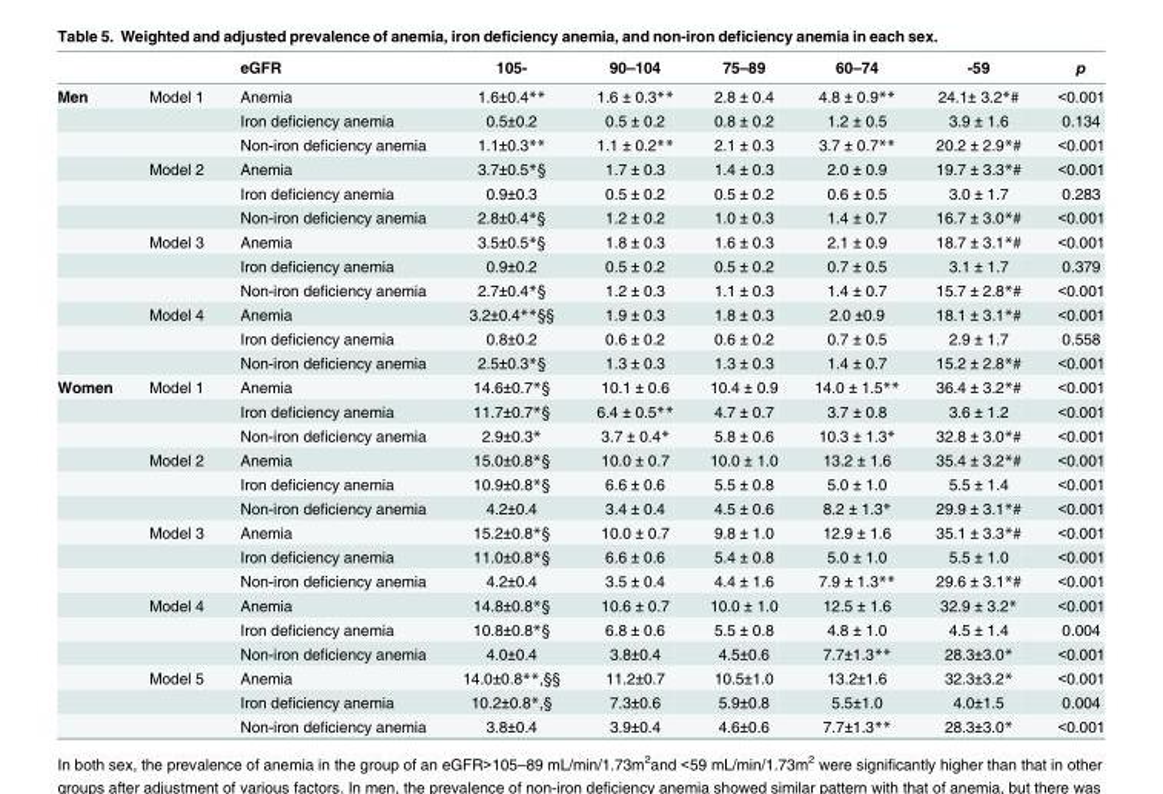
<table><thead><tr><td></td><td></td><td>eGFR</td><td>105-</td><td>90–104</td><td>75–89</td><td>60–74</td><td>-59</td><td>p</td></tr></thead><tbody><tr><td rowspan="12">Men</td><td>Model 1</td><td>Anemia</td><td>1.6±0.4**</td><td>1.6 ± 0.3**</td><td>2.8 ± 0.4</td><td>4.8 ± 0.9**</td><td>24.1± 3.2*#</td><td>&lt;0.001</td></tr><tr><td></td><td>Iron deficiency anemia</td><td>0.5±0.2</td><td>0.5 ± 0.2</td><td>0.8 ± 0.2</td><td>1.2 ± 0.5</td><td>3.9 ± 1.6</td><td>0.134</td></tr><tr><td></td><td>Non-iron deficiency anemia</td><td>1.1±0.3**</td><td>1.1 ± 0.2**</td><td>2.1 ± 0.3</td><td>3.7 ± 0.7**</td><td>20.2 ± 2.9*#</td><td>&lt;0.001</td></tr><tr><td>Model 2</td><td>Anemia</td><td>3.7±0.5*§</td><td>1.7 ± 0.3</td><td>1.4 ± 0.3</td><td>2.0 ± 0.9</td><td>19.7 ± 3.3*#</td><td>&lt;0.001</td></tr><tr><td></td><td>Iron deficiency anemia</td><td>0.9±0.3</td><td>0.5 ± 0.2</td><td>0.5 ± 0.2</td><td>0.6 ± 0.5</td><td>3.0 ± 1.7</td><td>0.283</td></tr><tr><td></td><td>Non-iron deficiency anemia</td><td>2.8±0.4*§</td><td>1.2 ± 0.2</td><td>1.0 ± 0.3</td><td>1.4 ± 0.7</td><td>16.7 ± 3.0*#</td><td>&lt;0.001</td></tr><tr><td>Model 3</td><td>Anemia</td><td>3.5±0.5*§</td><td>1.8 ± 0.3</td><td>1.6 ± 0.3</td><td>2.1 ± 0.9</td><td>18.7 ± 3.1*#</td><td>&lt;0.001</td></tr><tr><td></td><td>Iron deficiency anemia</td><td>0.9±0.2</td><td>0.5 ± 0.2</td><td>0.5 ± 0.2</td><td>0.7 ± 0.5</td><td>3.1 ± 1.7</td><td>0.379</td></tr><tr><td></td><td>Non-iron deficiency anemia</td><td>2.7±0.4*§</td><td>1.2 ± 0.3</td><td>1.1 ± 0.3</td><td>1.4 ± 0.7</td><td>15.7 ± 2.8*#</td><td>&lt;0.001</td></tr><tr><td>Model 4</td><td>Anemia</td><td>3.2±0.4**§§</td><td>1.9 ± 0.3</td><td>1.8 ± 0.3</td><td>2.0 ±0.9</td><td>18.1 ± 3.1*#</td><td>&lt;0.001</td></tr><tr><td></td><td>Iron deficiency anemia</td><td>0.8±0.2</td><td>0.6 ± 0.2</td><td>0.6 ± 0.2</td><td>0.7 ± 0.5</td><td>2.9 ± 1.7</td><td>0.558</td></tr><tr><td></td><td>Non-iron deficiency anemia</td><td>2.5±0.3*§</td><td>1.3 ± 0.3</td><td>1.3 ± 0.3</td><td>1.4 ± 0.7</td><td>15.2 ± 2.8*#</td><td>&lt;0.001</td></tr><tr><td rowspan="15">Women</td><td>Model 1</td><td>Anemia</td><td>14.6±0.7*§</td><td>10.1 ± 0.6</td><td>10.4 ± 0.9</td><td>14.0 ± 1.5**</td><td>36.4 ± 3.2*#</td><td>&lt;0.001</td></tr><tr><td></td><td>Iron deficiency anemia</td><td>11.7±0.7*§</td><td>6.4 ± 0.5**</td><td>4.7 ± 0.7</td><td>3.7 ± 0.8</td><td>3.6 ± 1.2</td><td>&lt;0.001</td></tr><tr><td></td><td>Non-iron deficiency anemia</td><td>2.9±0.3*</td><td>3.7 ± 0.4*</td><td>5.8 ± 0.6</td><td>10.3 ± 1.3*</td><td>32.8 ± 3.0*#</td><td>&lt;0.001</td></tr><tr><td>Model 2</td><td>Anemia</td><td>15.0±0.8*§</td><td>10.0 ± 0.7</td><td>10.0 ± 1.0</td><td>13.2 ± 1.6</td><td>35.4 ± 3.2*#</td><td>&lt;0.001</td></tr><tr><td></td><td>Iron deficiency anemia</td><td>10.9±0.8*§</td><td>6.6 ± 0.6</td><td>5.5 ± 0.8</td><td>5.0 ± 1.0</td><td>5.5 ± 1.4</td><td>&lt;0.001</td></tr><tr><td></td><td>Non-iron deficiency anemia</td><td>4.2±0.4</td><td>3.4 ± 0.4</td><td>4.5 ± 0.6</td><td>8.2 ± 1.3*</td><td>29.9 ± 3.1*#</td><td>&lt;0.001</td></tr><tr><td>Model 3</td><td>Anemia</td><td>15.2±0.8*§</td><td>10.0 ± 0.7</td><td>9.8 ± 1.0</td><td>12.9 ± 1.6</td><td>35.1 ± 3.3*#</td><td>&lt;0.001</td></tr><tr><td></td><td>Iron deficiency anemia</td><td>11.0±0.8*§</td><td>6.6 ± 0.6</td><td>5.4 ± 0.8</td><td>5.0 ± 1.0</td><td>5.5 ± 1.0</td><td>&lt;0.001</td></tr><tr><td></td><td>Non-iron deficiency anemia</td><td>4.2±0.4</td><td>3.5 ± 0.4</td><td>4.4 ± 1.6</td><td>7.9 ± 1.3**</td><td>29.6 ± 3.1*#</td><td>&lt;0.001</td></tr><tr><td>Model 4</td><td>Anemia</td><td>14.8±0.8*§</td><td>10.6 ± 0.7</td><td>10.0 ± 1.0</td><td>12.5 ± 1.6</td><td>32.9 ± 3.2*</td><td>&lt;0.001</td></tr><tr><td></td><td>Iron deficiency anemia</td><td>10.8±0.8*§</td><td>6.8 ± 0.6</td><td>5.5 ± 0.8</td><td>4.8 ± 1.0</td><td>4.5 ± 1.4</td><td>0.004</td></tr><tr><td></td><td>Non-iron deficiency anemia</td><td>4.0±0.4</td><td>3.8±0.4</td><td>4.5±0.6</td><td>7.7±1.3**</td><td>28.3±3.0*</td><td>&lt;0.001</td></tr><tr><td>Model 5</td><td>Anemia</td><td>14.0±0.8**,§§</td><td>11.2±0.7</td><td>10.5±1.0</td><td>13.2±1.6</td><td>32.3±3.2*</td><td>&lt;0.001</td></tr><tr><td></td><td>Iron deficiency anemia</td><td>10.2±0.8*,§</td><td>7.3±0.6</td><td>5.9±0.8</td><td>5.5±1.0</td><td>4.0±1.5</td><td>0.004</td></tr><tr><td></td><td>Non-iron deficiency anemia</td><td>3.8±0.4</td><td>3.9±0.4</td><td>4.6±0.6</td><td>7.7±1.3**</td><td>28.3±3.0*</td><td>&lt;0.001</td></tr></tbody></table>